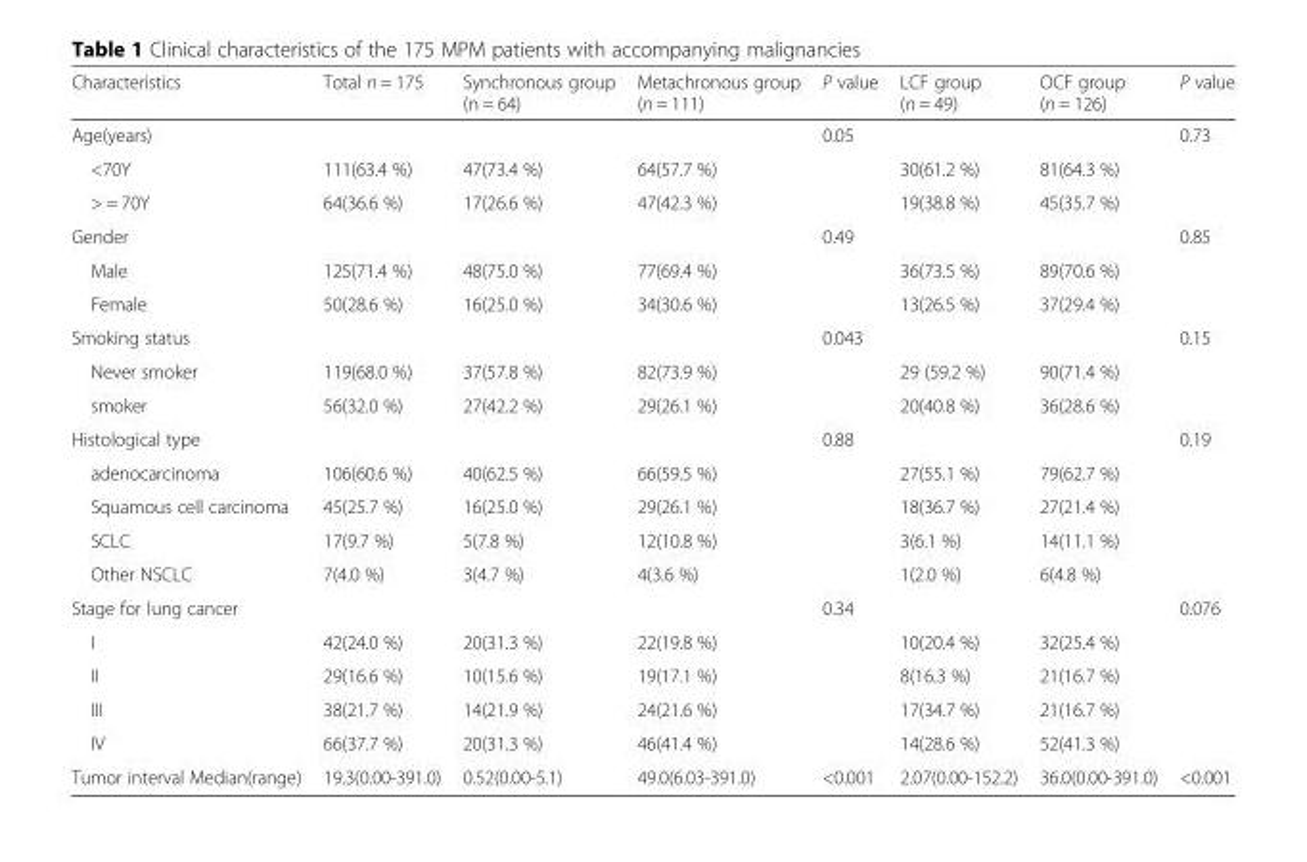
<table><thead><tr><td>Characteristics</td><td>Total n = 175</td><td>Synchronous group (n = 64)</td><td>Metachronous group (n = 111)</td><td>P value</td><td>LCF group (n = 49)</td><td>OCF group (n = 126)</td><td>P value</td></tr></thead><tbody><tr><td>Age(years)</td><td></td><td></td><td></td><td>0.05</td><td></td><td></td><td>0.73</td></tr><tr><td>&lt;70Y</td><td>111(63.4 %)</td><td>47(73.4 %)</td><td>64(57.7 %)</td><td></td><td>30(61.2 %)</td><td>81(64.3 %)</td><td></td></tr><tr><td>&gt; = 70Y</td><td>64(36.6 %)</td><td>17(26.6 %)</td><td>47(42.3 %)</td><td></td><td>19(38.8 %)</td><td>45(35.7 %)</td><td></td></tr><tr><td>Gender</td><td></td><td></td><td></td><td>0.49</td><td></td><td></td><td>0.85</td></tr><tr><td>Male</td><td>125(71.4 %)</td><td>48(75.0 %)</td><td>77(69.4 %)</td><td></td><td>36(73.5 %)</td><td>89(70.6 %)</td><td></td></tr><tr><td>Female</td><td>50(28.6 %)</td><td>16(25.0 %)</td><td>34(30.6 %)</td><td></td><td>13(26.5 %)</td><td>37(29.4 %)</td><td></td></tr><tr><td>Smoking status</td><td></td><td></td><td></td><td>0.043</td><td></td><td></td><td>0.15</td></tr><tr><td>Never smoker</td><td>119(68.0 %)</td><td>37(57.8 %)</td><td>82(73.9 %)</td><td></td><td>29 (59.2 %)</td><td>90(71.4 %)</td><td></td></tr><tr><td>smoker</td><td>56(32.0 %)</td><td>27(42.2 %)</td><td>29(26.1 %)</td><td></td><td>20(40.8 %)</td><td>36(28.6 %)</td><td></td></tr><tr><td>Histological type</td><td></td><td></td><td></td><td>0.88</td><td></td><td></td><td>0.19</td></tr><tr><td>adenocarcinoma</td><td>106(60.6 %)</td><td>40(62.5 %)</td><td>66(59.5 %)</td><td></td><td>27(55.1 %)</td><td>79(62.7 %)</td><td></td></tr><tr><td>Squamous cell carcinoma</td><td>45(25.7 %)</td><td>16(25.0 %)</td><td>29(26.1 %)</td><td></td><td>18(36.7 %)</td><td>27(21.4 %)</td><td></td></tr><tr><td>SCLC</td><td>17(9.7 %)</td><td>5(7.8 %)</td><td>12(10.8 %)</td><td></td><td>3(6.1 %)</td><td>14(11.1 %)</td><td></td></tr><tr><td>Other NSCLC</td><td>7(4.0 %)</td><td>3(4.7 %)</td><td>4(3.6 %)</td><td></td><td>1(2.0 %)</td><td>6(4.8 %)</td><td></td></tr><tr><td>Stage for lung cancer</td><td></td><td></td><td></td><td>0.34</td><td></td><td></td><td>0.076</td></tr><tr><td>I</td><td>42(24.0 %)</td><td>20(31.3 %)</td><td>22(19.8 %)</td><td></td><td>10(20.4 %)</td><td>32(25.4 %)</td><td></td></tr><tr><td>II</td><td>29(16.6 %)</td><td>10(15.6 %)</td><td>19(17.1 %)</td><td></td><td>8(16.3 %)</td><td>21(16.7 %)</td><td></td></tr><tr><td>III</td><td>38(21.7 %)</td><td>14(21.9 %)</td><td>24(21.6 %)</td><td></td><td>17(34.7 %)</td><td>21(16.7 %)</td><td></td></tr><tr><td>IV</td><td>66(37.7 %)</td><td>20(31.3 %)</td><td>46(41.4 %)</td><td></td><td>14(28.6 %)</td><td>52(41.3 %)</td><td></td></tr><tr><td>Tumor interval Median(range)</td><td>19.3(0.00-391.0)</td><td>0.52(0.00-5.1)</td><td>49.0(6.03-391.0)</td><td>&lt;0.001</td><td>2.07(0.00-152.2)</td><td>36.0(0.00-391.0)</td><td>&lt;0.001</td></tr></tbody></table>